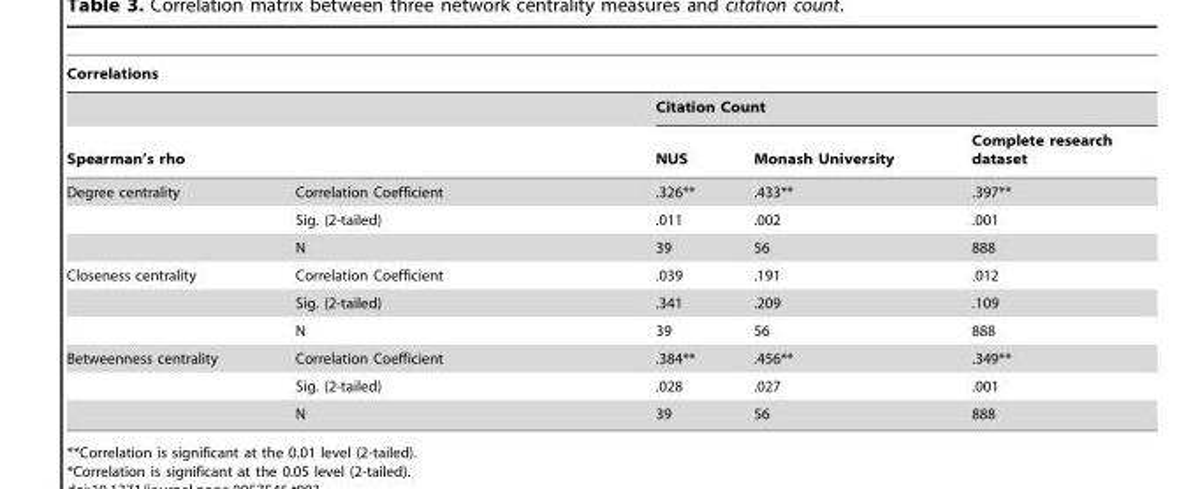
<table><thead><tr><td colspan="5">Correlations</td></tr><tr><td></td><td></td><td colspan="3">Citation Count</td></tr><tr><td colspan="2">Spearman’s rho</td><td>NUS</td><td>Monash University</td><td>Complete research dataset</td></tr></thead><tbody><tr><td rowspan="3">Degree centrality</td><td>Correlation Coefficient</td><td>.326**</td><td>.433**</td><td>.397**</td></tr><tr><td>Sig. (2-tailed)</td><td>.011</td><td>.002</td><td>.001</td></tr><tr><td>N</td><td>39</td><td>56</td><td>888</td></tr><tr><td rowspan="3">Closeness centrality</td><td>Correlation Coefficient</td><td>.039</td><td>.191</td><td>.012</td></tr><tr><td>Sig. (2-tailed)</td><td>.341</td><td>.209</td><td>.109</td></tr><tr><td>N</td><td>39</td><td>56</td><td>888</td></tr><tr><td rowspan="3">Betweenness centrality</td><td>Correlation Coefficient</td><td>.384**</td><td>.456**</td><td>.349**</td></tr><tr><td>Sig. (2-tailed)</td><td>.028</td><td>.027</td><td>.001</td></tr><tr><td>N</td><td>39</td><td>56</td><td>888</td></tr></tbody></table>